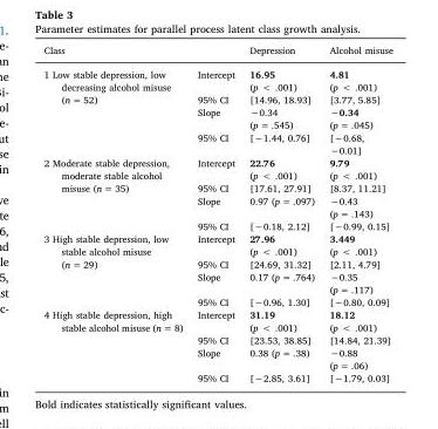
<table><thead><tr><td>Class</td><td></td><td>Depression</td><td>Alcohol misuse</td></tr></thead><tbody><tr><td rowspan="4">1 Low stable depression, low decreasing alcohol misuse (n = 52)</td><td>Intercept</td><td>16.95 (p &lt; .001)</td><td>4.81 (p &lt; .001)</td></tr><tr><td>95% CI</td><td>[14.96, 18.93]</td><td>[3.77, 5.85]</td></tr><tr><td>Slope</td><td>−0.34 (p = .545)</td><td>−0.34 (p = .045)</td></tr><tr><td>95% CI</td><td>[−1.44, 0.76]</td><td>[−0.68, −0.01]</td></tr><tr><td rowspan="4">2 Moderate stable depression, moderate stable alcohol misuse (n = 35)</td><td>Intercept</td><td>22.76 (p &lt; .001)</td><td>9.79 (p &lt; .001)</td></tr><tr><td>95% CI</td><td>[17.61, 27.91]</td><td>[8.37, 11.21]</td></tr><tr><td>Slope</td><td>0.97 (p = .097)</td><td>−0.43 (p = .143)</td></tr><tr><td>95% CI</td><td>[−0.18, 2.12]</td><td>[−0.99, 0.15]</td></tr><tr><td rowspan="4">3 High stable depression, low stable alcohol misuse (n = 29)</td><td>Intercept</td><td>27.96 (p &lt; .001)</td><td>3.449 (p &lt; .001)</td></tr><tr><td>95% CI</td><td>[24.69, 31.32]</td><td>[2.11, 4.79]</td></tr><tr><td>Slope</td><td>0.17 (p = .764)</td><td>−0.35 (p = .117)</td></tr><tr><td>95% CI</td><td>[−0.96, 1.30]</td><td>[−0.80, 0.09]</td></tr><tr><td rowspan="4">4 High stable depression, high stable alcohol misuse (n = 8)</td><td>Intercept</td><td>31.19 (p &lt; .001)</td><td>18.12 (p &lt; .001)</td></tr><tr><td>95% CI</td><td>[23.53, 38.85]</td><td>[14.84, 21.39]</td></tr><tr><td>Slope</td><td>0.38 (p = .38)</td><td>−0.88 (p = .06)</td></tr><tr><td>95% CI</td><td>[−2.85, 3.61]</td><td>[−1.79, 0.03]</td></tr></tbody></table>